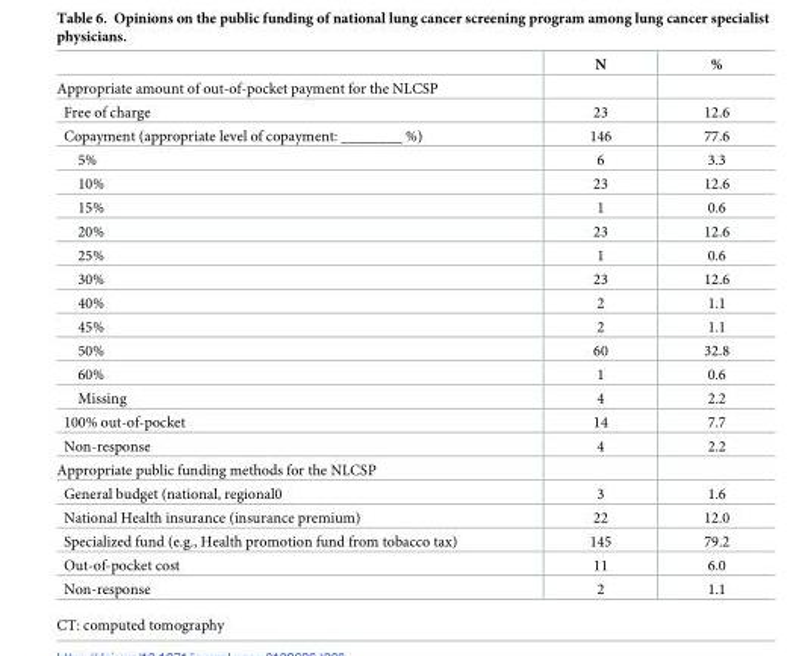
<table><thead><tr><td></td><td>N</td><td>%</td></tr></thead><tbody><tr><td colspan="3">Appropriate amount of out-of-pocket payment for the NLCSP</td></tr><tr><td>Free of charge</td><td>23</td><td>12.6</td></tr><tr><td>Copayment (appropriate level of copayment: ________ %)</td><td>146</td><td>77.6</td></tr><tr><td>5%</td><td>6</td><td>3.3</td></tr><tr><td>10%</td><td>23</td><td>12.6</td></tr><tr><td>15%</td><td>1</td><td>0.6</td></tr><tr><td>20%</td><td>23</td><td>12.6</td></tr><tr><td>25%</td><td>1</td><td>0.6</td></tr><tr><td>30%</td><td>23</td><td>12.6</td></tr><tr><td>40%</td><td>2</td><td>1.1</td></tr><tr><td>45%</td><td>2</td><td>1.1</td></tr><tr><td>50%</td><td>60</td><td>32.8</td></tr><tr><td>60%</td><td>1</td><td>0.6</td></tr><tr><td>Missing</td><td>4</td><td>2.2</td></tr><tr><td>100% out-of-pocket</td><td>14</td><td>7.7</td></tr><tr><td>Non-response</td><td>4</td><td>2.2</td></tr><tr><td colspan="3">Appropriate public funding methods for the NLCSP</td></tr><tr><td>General budget (national, regional0</td><td>3</td><td>1.6</td></tr><tr><td>National Health insurance (insurance premium)</td><td>22</td><td>12.0</td></tr><tr><td>Specialized fund (e.g., Health promotion fund from tobacco tax)</td><td>145</td><td>79.2</td></tr><tr><td>Out-of-pocket cost</td><td>11</td><td>6.0</td></tr><tr><td>Non-response</td><td>2</td><td>1.1</td></tr></tbody></table>